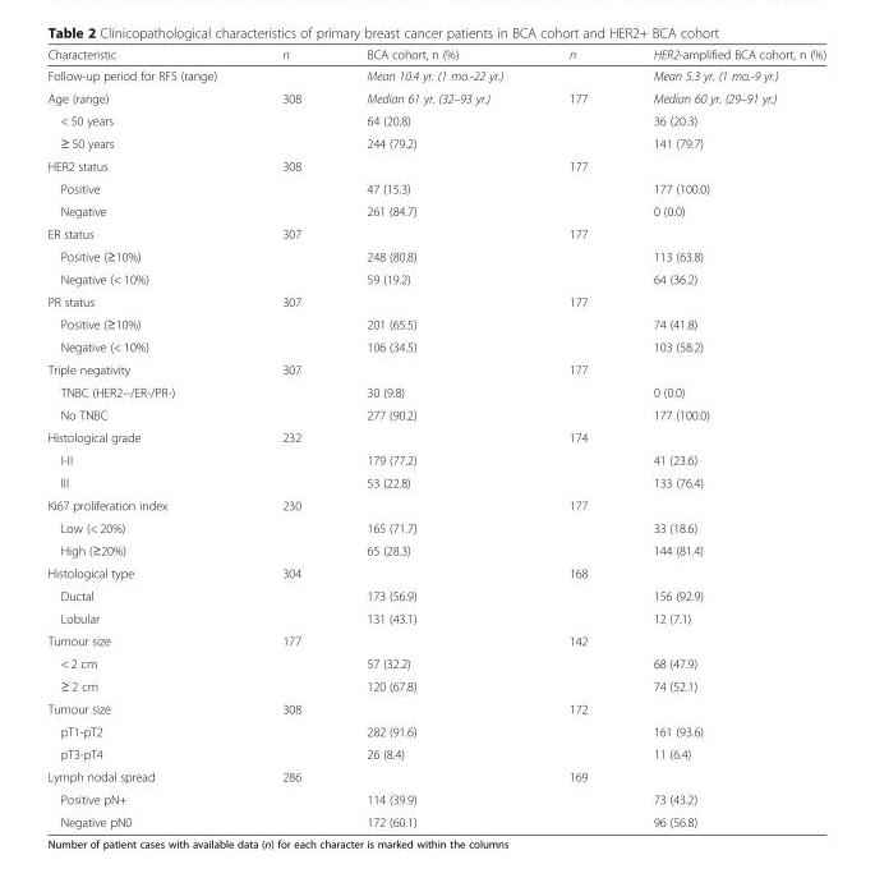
<table><thead><tr><td>Characteristic</td><td>n</td><td>BCA cohort, n (%)</td><td>n</td><td>HER2-amplified BCA cohort, n (%)</td></tr></thead><tbody><tr><td>Follow-up period for RFS (range)</td><td></td><td>Mean 10.4 yr. (1 mo.-22 yr.)</td><td></td><td>Mean 5.3 yr. (1 mo.-9 yr.)</td></tr><tr><td>Age (range)</td><td>308</td><td>Median 61 yr. (32–93 yr.)</td><td>177</td><td>Median 60 yr. (29–91 yr.)</td></tr><tr><td>&lt; 50 years</td><td></td><td>64 (20.8)</td><td></td><td>36 (20.3)</td></tr><tr><td>≥ 50 years</td><td></td><td>244 (79.2)</td><td></td><td>141 (79.7)</td></tr><tr><td>HER2 status</td><td>308</td><td></td><td>177</td><td></td></tr><tr><td>Positive</td><td></td><td>47 (15.3)</td><td></td><td>177 (100.0)</td></tr><tr><td>Negative</td><td></td><td>261 (84.7)</td><td></td><td>0 (0.0)</td></tr><tr><td>ER status</td><td>307</td><td></td><td>177</td><td></td></tr><tr><td>Positive (≥10%)</td><td></td><td>248 (80.8)</td><td></td><td>113 (63.8)</td></tr><tr><td>Negative (&lt; 10%)</td><td></td><td>59 (19.2)</td><td></td><td>64 (36.2)</td></tr><tr><td>PR status</td><td>307</td><td></td><td>177</td><td></td></tr><tr><td>Positive (≥10%)</td><td></td><td>201 (65.5)</td><td></td><td>74 (41.8)</td></tr><tr><td>Negative (&lt; 10%)</td><td></td><td>106 (34.5)</td><td></td><td>103 (58.2)</td></tr><tr><td>Triple negativity</td><td>307</td><td></td><td>177</td><td></td></tr><tr><td>TNBC (HER2−/ER-/PR-)</td><td></td><td>30 (9.8)</td><td></td><td>0 (0.0)</td></tr><tr><td>No TNBC</td><td></td><td>277 (90.2)</td><td></td><td>177 (100.0)</td></tr><tr><td>Histological grade</td><td>232</td><td></td><td>174</td><td></td></tr><tr><td>I-II</td><td></td><td>179 (77.2)</td><td></td><td>41 (23.6)</td></tr><tr><td>III</td><td></td><td>53 (22.8)</td><td></td><td>133 (76.4)</td></tr><tr><td>Ki67 proliferation index</td><td>230</td><td></td><td>177</td><td></td></tr><tr><td>Low (&lt; 20%)</td><td></td><td>165 (71.7)</td><td></td><td>33 (18.6)</td></tr><tr><td>High (≥20%)</td><td></td><td>65 (28.3)</td><td></td><td>144 (81.4)</td></tr><tr><td>Histological type</td><td>304</td><td></td><td>168</td><td></td></tr><tr><td>Ductal</td><td></td><td>173 (56.9)</td><td></td><td>156 (92.9)</td></tr><tr><td>Lobular</td><td></td><td>131 (43.1)</td><td></td><td>12 (7.1)</td></tr><tr><td>Tumour size</td><td>177</td><td></td><td>142</td><td></td></tr><tr><td>&lt; 2 cm</td><td></td><td>57 (32.2)</td><td></td><td>68 (47.9)</td></tr><tr><td>≥ 2 cm</td><td></td><td>120 (67.8)</td><td></td><td>74 (52.1)</td></tr><tr><td>Tumour size</td><td>308</td><td></td><td>172</td><td></td></tr><tr><td>pT1-pT2</td><td></td><td>282 (91.6)</td><td></td><td>161 (93.6)</td></tr><tr><td>pT3-pT4</td><td></td><td>26 (8.4)</td><td></td><td>11 (6.4)</td></tr><tr><td>Lymph nodal spread</td><td>286</td><td></td><td>169</td><td></td></tr><tr><td>Positive pN+</td><td></td><td>114 (39.9)</td><td></td><td>73 (43.2)</td></tr><tr><td>Negative pN0</td><td></td><td>172 (60.1)</td><td></td><td>96 (56.8)</td></tr></tbody></table>